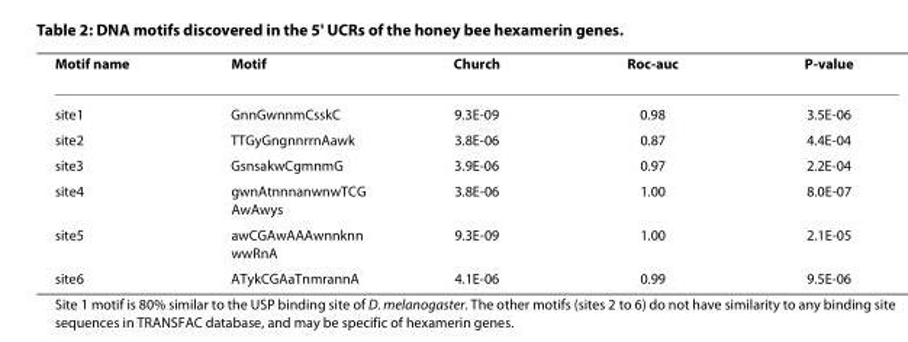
<table><thead><tr><td>Motif name</td><td>Motif</td><td>Church</td><td>Roc-auc</td><td>P-value</td></tr></thead><tbody><tr><td>site1</td><td>GnnGwnnmCsskC</td><td>9.3E-09</td><td>0.98</td><td>3.5E-06</td></tr><tr><td>site2</td><td>TTGyGngnnrrnAawk</td><td>3.8E-06</td><td>0.87</td><td>4.4E-04</td></tr><tr><td>site3</td><td>GsnsakwCgmnmG</td><td>3.9E-06</td><td>0.97</td><td>2.2E-04</td></tr><tr><td>site4</td><td>gwnAtnnnanwnwTCG AwAwys</td><td>3.8E-06</td><td>1.00</td><td>8.0E-07</td></tr><tr><td>site5</td><td>awCGAwAAAwnnknn wwRnA</td><td>9.3E-09</td><td>1.00</td><td>2.1E-05</td></tr><tr><td>site6</td><td>ATykCGAaTnmrannA</td><td>4.1E-06</td><td>0.99</td><td>9.5E-06</td></tr></tbody></table>